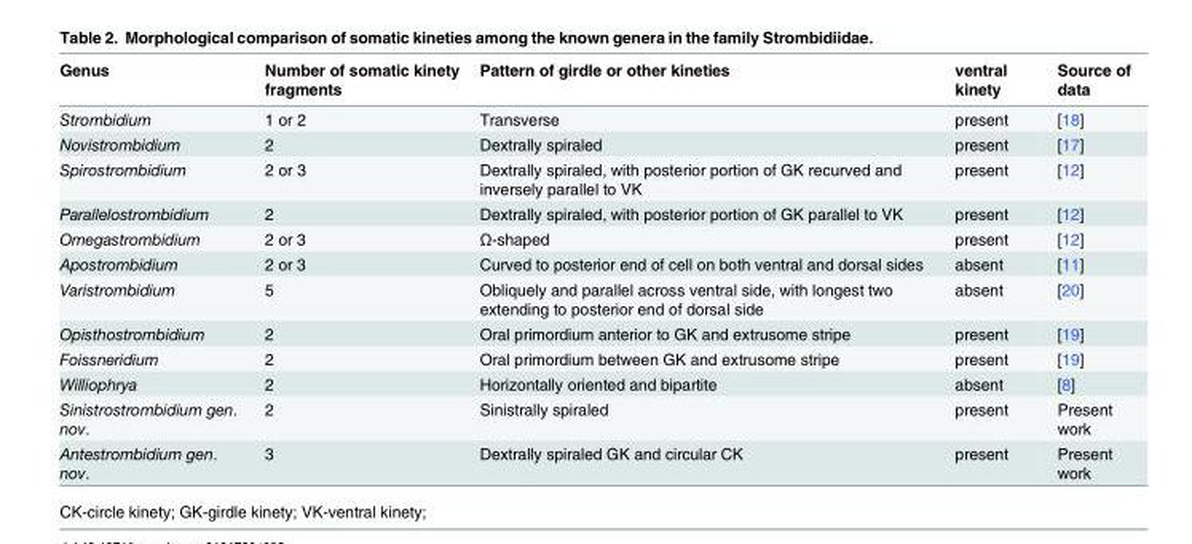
<table><thead><tr><td>Genus</td><td>Number of somatic kinety fragments</td><td>Pattern of girdle or other kineties</td><td>ventral kinety</td><td>Source of data</td></tr></thead><tbody><tr><td>Strombidium</td><td>1 or 2</td><td>Transverse</td><td>present</td><td>[18]</td></tr><tr><td>Novistrombidium</td><td>2</td><td>Dextrally spiraled</td><td>present</td><td>[17]</td></tr><tr><td>Spirostrombidium</td><td>2 or 3</td><td>Dextrally spiraled, with posterior portion of GK recurved and inversely parallel to VK</td><td>present</td><td>[12]</td></tr><tr><td>Parallelostrombidium</td><td>2</td><td>Dextrally spiraled, with posterior portion of GK parallel to VK</td><td>present</td><td>[12]</td></tr><tr><td>Omegastrombidium</td><td>2 or 3</td><td>Ω-shaped</td><td>present</td><td>[12]</td></tr><tr><td>Apostrombidium</td><td>2 or 3</td><td>Curved to posterior end of cell on both ventral and dorsal sides</td><td>absent</td><td>[11]</td></tr><tr><td>Varistrombidium</td><td>5</td><td>Obliquely and parallel across ventral side, with longest two extending to posterior end of dorsal side</td><td>absent</td><td>[20]</td></tr><tr><td>Opisthostrombidium</td><td>2</td><td>Oral primordium anterior to GK and extrusome stripe</td><td>present</td><td>[19]</td></tr><tr><td>Foissneridium</td><td>2</td><td>Oral primordium between GK and extrusome stripe</td><td>present</td><td>[19]</td></tr><tr><td>Williophrya</td><td>2</td><td>Horizontally oriented and bipartite</td><td>absent</td><td>[8]</td></tr><tr><td>Sinistrostrombidium gen. nov.</td><td>2</td><td>Sinistrally spiraled</td><td>present</td><td>Present work</td></tr><tr><td>Antestrombidium gen. nov.</td><td>3</td><td>Dextrally spiraled GK and circular CK</td><td>present</td><td>Present work</td></tr></tbody></table>